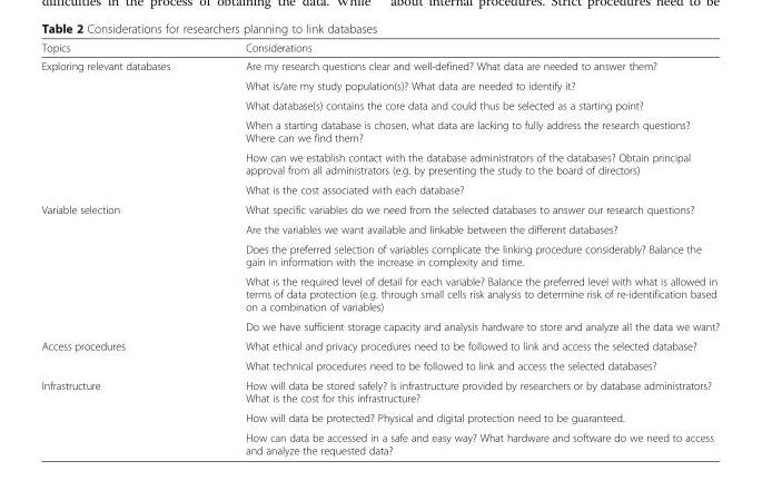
<table><thead><tr><td>Topics</td><td>Considerations</td></tr></thead><tbody><tr><td rowspan="6">Exploring relevant databases</td><td>Are my research questions clear and well-defined? What data are needed to answer them?</td></tr><tr><td>What is/are my study population(s)? What data are needed to identify it?</td></tr><tr><td>What database(s) contains the core data and could thus be selected as a starting point?</td></tr><tr><td>When a starting database is chosen, what data are lacking to fully address the research questions? Where can we find them?</td></tr><tr><td>How can we establish contact with the database administrators of the databases? Obtain principal approval from all administrators (e.g. by presenting the study to the board of directors)</td></tr><tr><td>What is the cost associated with each database?</td></tr><tr><td rowspan="5">Variable selection</td><td>What specific variables do we need from the selected databases to answer our research questions?</td></tr><tr><td>Are the variables we want available and linkable between the different databases?</td></tr><tr><td>Does the preferred selection of variables complicate the linking procedure considerably? Balance the gain in information with the increase in complexity and time.</td></tr><tr><td>What is the required level of detail for each variable? Balance the preferred level with what is allowed in terms of data protection (e.g. through small cells risk analysis to determine risk of re-identification based on a combination of variables)</td></tr><tr><td>Do we have sufficient storage capacity and analysis hardware to store and analyze all the data we want?</td></tr><tr><td rowspan="2">Access procedures</td><td>What ethical and privacy procedures need to be followed to link and access the selected database?</td></tr><tr><td>What technical procedures need to be followed to link and access the selected databases?</td></tr><tr><td rowspan="3">Infrastructure</td><td>How will data be stored safely? Is infrastructure provided by researchers or by database administrators? What is the cost for this infrastructure?</td></tr><tr><td>How will data be protected? Physical and digital protection need to be guaranteed.</td></tr><tr><td>How can data be accessed in a safe and easy way? What hardware and software do we need to access and analyze the requested data?</td></tr></tbody></table>